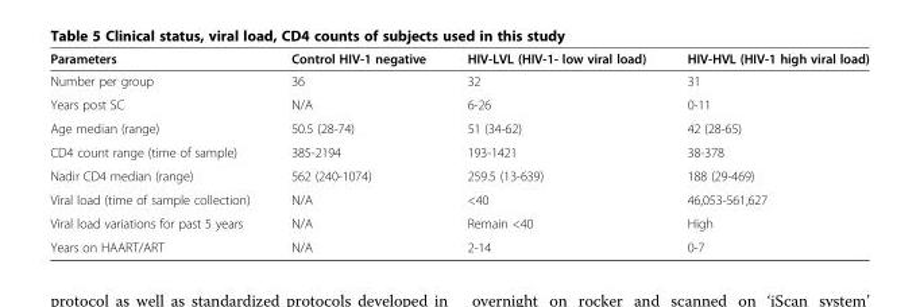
<table><thead><tr><td>Parameters</td><td>Control HIV-1 negative</td><td>HIV-LVL (HIV-1- low viral load)</td><td>HIV-HVL (HIV-1 high viral load)</td></tr></thead><tbody><tr><td>Number per group</td><td>36</td><td>32</td><td>31</td></tr><tr><td>Years post SC</td><td>N/A</td><td>6-26</td><td>0-11</td></tr><tr><td>Age median (range)</td><td>50.5 (28-74)</td><td>51 (34-62)</td><td>42 (28-65)</td></tr><tr><td>CD4 count range (time of sample)</td><td>385-2194</td><td>193-1421</td><td>38-378</td></tr><tr><td>Nadir CD4 median (range)</td><td>562 (240-1074)</td><td>259.5 (13-639)</td><td>188 (29-469)</td></tr><tr><td>Viral load (time of sample collection)</td><td>N/A</td><td>&lt;40</td><td>46,053-561,627</td></tr><tr><td>Viral load variations for past 5 years</td><td>N/A</td><td>Remain &lt;40</td><td>High</td></tr><tr><td>Years on HAART/ART</td><td>N/A</td><td>2-14</td><td>0-7</td></tr></tbody></table>